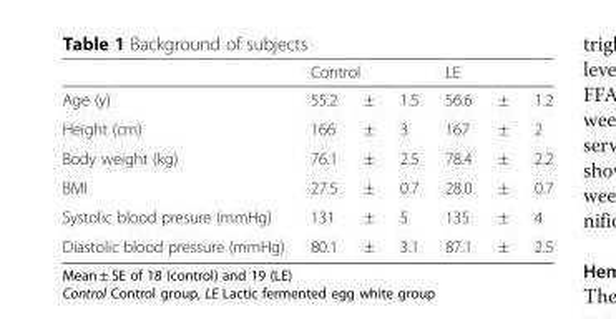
<table><thead><tr><td rowspan="2">Age (y)</td><td colspan="3">Control</td><td colspan="3">LE</td></tr><tr><td>55.2</td><td>±</td><td>1.5</td><td>56.6</td><td>±</td><td>1.2</td></tr></thead><tbody><tr><td>Height (cm)</td><td>166</td><td>±</td><td>3</td><td>167</td><td>±</td><td>2</td></tr><tr><td>Body weight (kg)</td><td>76.1</td><td>±</td><td>2.5</td><td>78.4</td><td>±</td><td>2.2</td></tr><tr><td>BMI</td><td>27.5</td><td>±</td><td>0.7</td><td>28.0</td><td>±</td><td>0.7</td></tr><tr><td>Systolic blood presure (mmHg)</td><td>131</td><td>±</td><td>5</td><td>135</td><td>±</td><td>4</td></tr><tr><td>Diastolic blood pressure (mmHg)</td><td>80.1</td><td>±</td><td>3.1</td><td>87.1</td><td>±</td><td>2.5</td></tr></tbody></table>